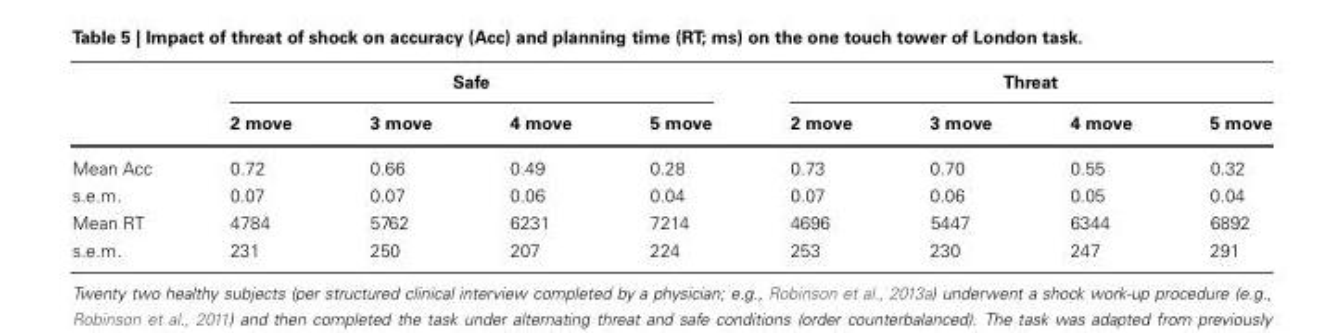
<table><thead><tr><td rowspan="2"></td><td colspan="4">Safe</td><td colspan="4">Threat</td></tr><tr><td>2 move</td><td>3 move</td><td>4 move</td><td>5 move</td><td>2 move</td><td>3 move</td><td>4 move</td><td>5 move</td></tr></thead><tbody><tr><td>Mean Acc</td><td>0.72</td><td>0.66</td><td>0.49</td><td>0.28</td><td>0.73</td><td>0.70</td><td>0.55</td><td>0.32</td></tr><tr><td>s.e.m.</td><td>0.07</td><td>0.07</td><td>0.06</td><td>0.04</td><td>0.07</td><td>0.06</td><td>0.05</td><td>0.04</td></tr><tr><td>Mean RT</td><td>4784</td><td>5762</td><td>6231</td><td>7214</td><td>4696</td><td>5447</td><td>6344</td><td>6892</td></tr><tr><td>s.e.m.</td><td>231</td><td>250</td><td>207</td><td>224</td><td>253</td><td>230</td><td>247</td><td>291</td></tr></tbody></table>